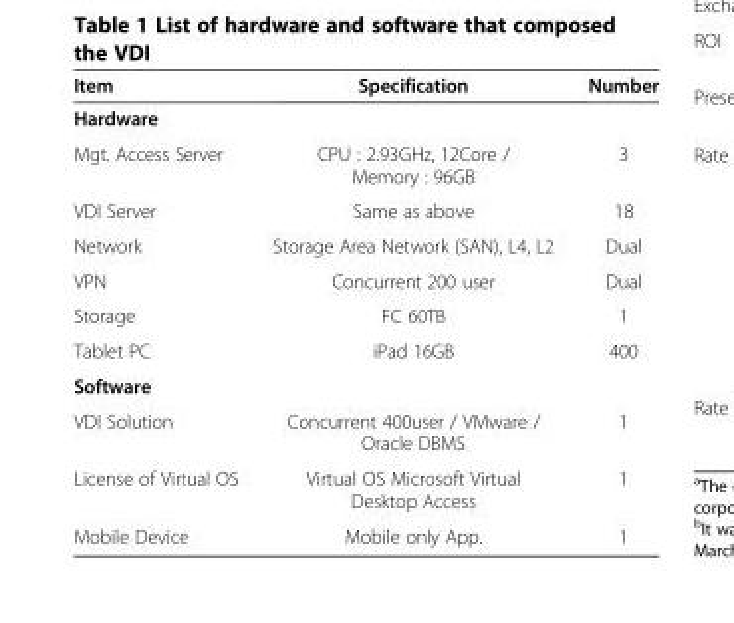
<table><thead><tr><td>Item</td><td>Specification</td><td>Number</td></tr></thead><tbody><tr><td colspan="3">Hardware</td></tr><tr><td>Mgt. Access Server</td><td>CPU : 2.93GHz, 12Core / Memory : 96GB</td><td>3</td></tr><tr><td>VDI Server</td><td>Same as above</td><td>18</td></tr><tr><td>Network</td><td>Storage Area Network (SAN), L4, L2</td><td>Dual</td></tr><tr><td>VPN</td><td>Concurrent 200 user</td><td>Dual</td></tr><tr><td>Storage</td><td>FC 60TB</td><td>1</td></tr><tr><td>Tablet PC</td><td>iPad 16GB</td><td>400</td></tr><tr><td colspan="3">Software</td></tr><tr><td>VDI Solution</td><td>Concurrent 400user / VMware / Oracle DBMS</td><td>1</td></tr><tr><td>License of Virtual OS</td><td>Virtual OS Microsoft Virtual Desktop Access</td><td>1</td></tr><tr><td>Mobile Device</td><td>Mobile only App.</td><td>1</td></tr></tbody></table>